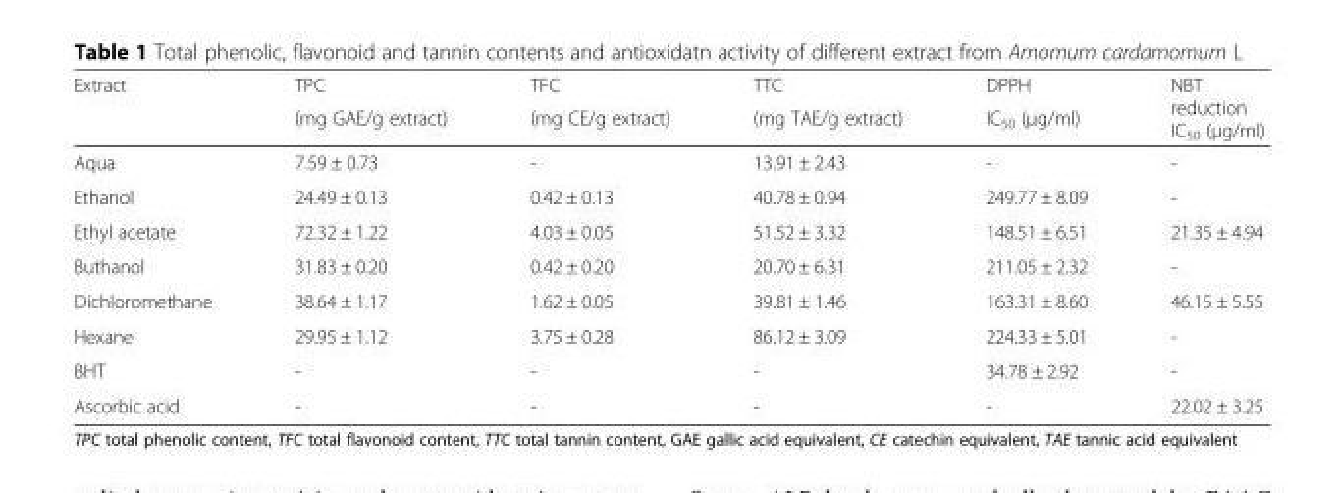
<table><thead><tr><td rowspan="2">Extract</td><td rowspan="2">TPC (mg GAE/g extract)</td><td rowspan="2">TFC (mg CE/g extract)</td><td rowspan="2">TTC (mg TAE/g extract)</td><td rowspan="2">DPPH IC<sub>50</sub> (μg/ml)</td><td rowspan="2">NBT reduction IC<sub>50</sub> (μg/ml)</td></tr><tr></tr></thead><tbody><tr><td>Aqua</td><td>7.59 ± 0.73</td><td>-</td><td>13.91 ± 2.43</td><td>-</td><td>-</td></tr><tr><td>Ethanol</td><td>24.49 ± 0.13</td><td>0.42 ± 0.13</td><td>40.78 ± 0.94</td><td>249.77 ± 8.09</td><td>-</td></tr><tr><td>Ethyl acetate</td><td>72.32 ± 1.22</td><td>4.03 ± 0.05</td><td>51.52 ± 3.32</td><td>148.51 ± 6.51</td><td>21.35 ± 4.94</td></tr><tr><td>Buthanol</td><td>31.83 ± 0.20</td><td>0.42 ± 0.20</td><td>20.70 ± 6.31</td><td>211.05 ± 2.32</td><td>-</td></tr><tr><td>Dichloromethane</td><td>38.64 ± 1.17</td><td>1.62 ± 0.05</td><td>39.81 ± 1.46</td><td>163.31 ± 8.60</td><td>46.15 ± 5.55</td></tr><tr><td>Hexane</td><td>29.95 ± 1.12</td><td>3.75 ± 0.28</td><td>86.12 ± 3.09</td><td>224.33 ± 5.01</td><td>-</td></tr><tr><td>BHT</td><td>-</td><td>-</td><td>-</td><td>34.78 ± 2.92</td><td>-</td></tr><tr><td>Ascorbic acid</td><td>-</td><td>-</td><td>-</td><td>-</td><td>22.02 ± 3.25</td></tr></tbody></table>